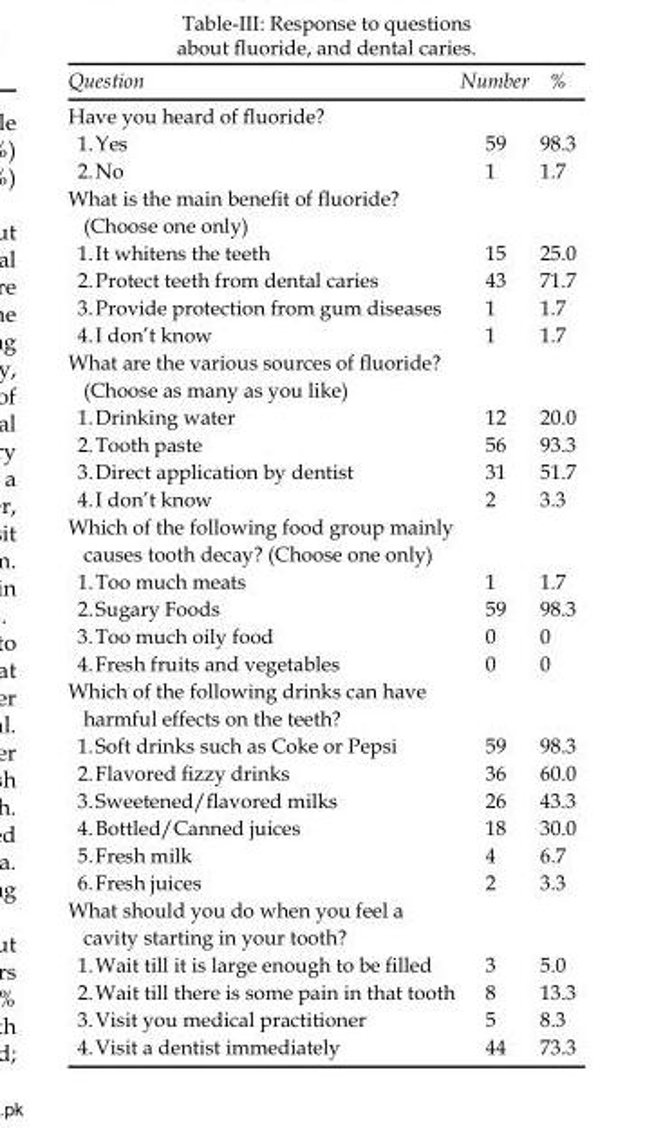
<table><thead><tr><td>Question</td><td>Number</td><td>%</td></tr></thead><tbody><tr><td colspan="3">Have you heard of fluoride?</td></tr><tr><td>1. Yes</td><td>59</td><td>98.3</td></tr><tr><td>2. No</td><td>1</td><td>1.7</td></tr><tr><td colspan="3">What is the main benefit of fluoride? (Choose one only)</td></tr><tr><td>1. It whitens the teeth</td><td>15</td><td>25.0</td></tr><tr><td>2. Protect teeth from dental caries</td><td>43</td><td>71.7</td></tr><tr><td>3. Provide protection from gum diseases</td><td>1</td><td>1.7</td></tr><tr><td>4. I don’t know</td><td>1</td><td>1.7</td></tr><tr><td colspan="3">What are the various sources of fluoride? (Choose as many as you like)</td></tr><tr><td>1. Drinking water</td><td>12</td><td>20.0</td></tr><tr><td>2. Tooth paste</td><td>56</td><td>93.3</td></tr><tr><td>3. Direct application by dentist</td><td>31</td><td>51.7</td></tr><tr><td>4. I don’t know</td><td>2</td><td>3.3</td></tr><tr><td colspan="3">Which of the following food group mainly causes tooth decay? (Choose one only)</td></tr><tr><td>1. Too much meats</td><td>1</td><td>1.7</td></tr><tr><td>2. Sugary Foods</td><td>59</td><td>98.3</td></tr><tr><td>3. Too much oily food</td><td>0</td><td>0</td></tr><tr><td>4. Fresh fruits and vegetables</td><td>0</td><td>0</td></tr><tr><td colspan="3">Which of the following drinks can have harmful effects on the teeth?</td></tr><tr><td>1. Soft drinks such as Coke or Pepsi</td><td>59</td><td>98.3</td></tr><tr><td>2. Flavored fizzy drinks</td><td>36</td><td>60.0</td></tr><tr><td>3. Sweetened/flavored milks</td><td>26</td><td>43.3</td></tr><tr><td>4. Bottled/Canned juices</td><td>18</td><td>30.0</td></tr><tr><td>5. Fresh milk</td><td>4</td><td>6.7</td></tr><tr><td>6. Fresh juices</td><td>2</td><td>3.3</td></tr><tr><td colspan="3">What should you do when you feel a cavity starting in your tooth?</td></tr><tr><td>1. Wait till it is large enough to be filled</td><td>3</td><td>5.0</td></tr><tr><td>2. Wait till there is some pain in that tooth</td><td>8</td><td>13.3</td></tr><tr><td>3. Visit you medical practitioner</td><td>5</td><td>8.3</td></tr><tr><td>4. Visit a dentist immediately</td><td>44</td><td>73.3</td></tr></tbody></table>